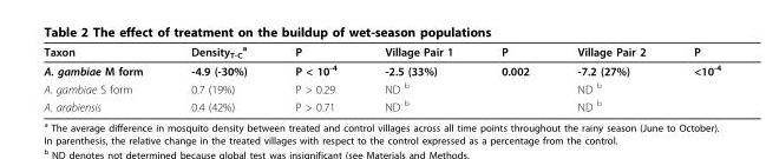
<table><thead><tr><td>Taxon</td><td>Density<sub>T-C</sub> <sup>a</sup></td><td>P</td><td>Village Pair 1</td><td>P</td><td>Village Pair 2</td><td>P</td></tr></thead><tbody><tr><td>A. gambiae M form</td><td>-4.9 (-30%)</td><td>P &lt; 10<sup>-4</sup></td><td>-2.5 (33%)</td><td>0.002</td><td>-7.2 (27%)</td><td>&lt;10<sup>-4</sup></td></tr><tr><td>A. gambiae S form</td><td>0.7 (19%)</td><td>P &gt; 0.29</td><td>ND <sup>b</sup></td><td></td><td>ND <sup>b</sup></td><td></td></tr><tr><td>A. arabiensis</td><td>0.4 (42%)</td><td>P &gt; 0.71</td><td>ND <sup>b</sup></td><td></td><td>ND <sup>b</sup></td><td></td></tr></tbody></table>